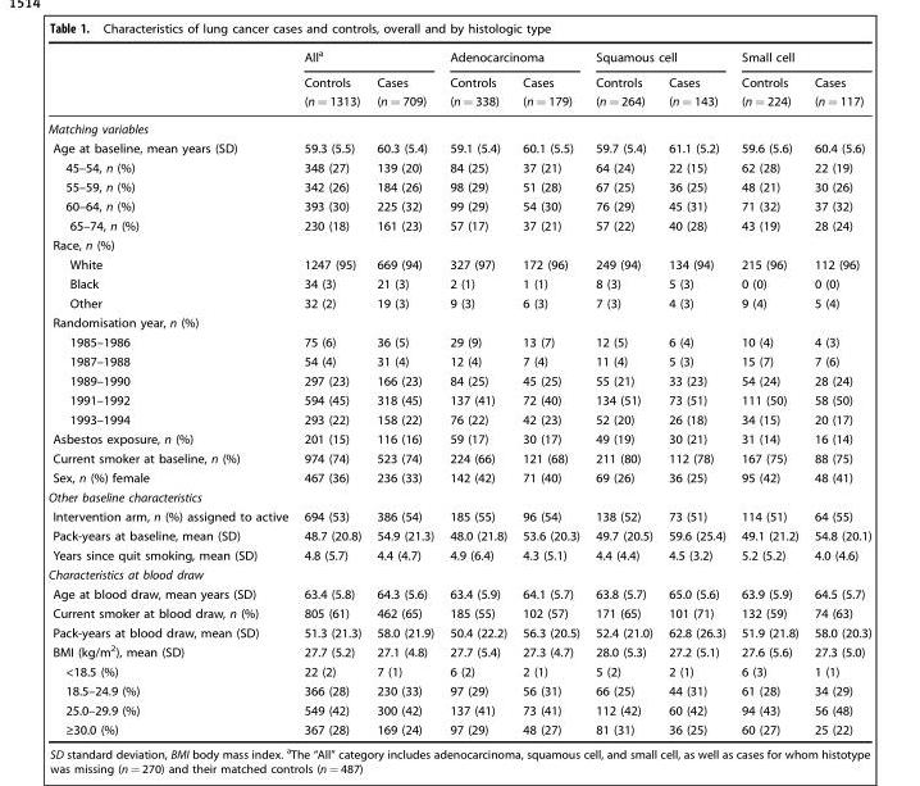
<table><thead><tr><td rowspan="3"></td><td colspan="2">All<sup>a</sup></td><td colspan="2">Adenocarcinoma</td><td colspan="2">Squamous cell</td><td colspan="2">Small cell</td></tr><tr><td rowspan="2">Controls (n = 1313)</td><td rowspan="2">Cases (n = 709)</td><td rowspan="2">Controls (n = 338)</td><td rowspan="2">Cases (n = 179)</td><td rowspan="2">Controls (n = 264)</td><td rowspan="2">Cases (n = 143)</td><td rowspan="2">Controls (n = 224)</td><td rowspan="2">Cases (n = 117)</td></tr><tr></tr></thead><tbody><tr><td colspan="9">Matching variables</td></tr><tr><td>Age at baseline, mean years (SD)</td><td>59.3 (5.5)</td><td>60.3 (5.4)</td><td>59.1 (5.4)</td><td>60.1 (5.5)</td><td>59.7 (5.4)</td><td>61.1 (5.2)</td><td>59.6 (5.6)</td><td>60.4 (5.6)</td></tr><tr><td>45–54, n (%)</td><td>348 (27)</td><td>139 (20)</td><td>84 (25)</td><td>37 (21)</td><td>64 (24)</td><td>22 (15)</td><td>62 (28)</td><td>22 (19)</td></tr><tr><td>55–59, n (%)</td><td>342 (26)</td><td>184 (26)</td><td>98 (29)</td><td>51 (28)</td><td>67 (25)</td><td>36 (25)</td><td>48 (21)</td><td>30 (26)</td></tr><tr><td>60–64, n (%)</td><td>393 (30)</td><td>225 (32)</td><td>99 (29)</td><td>54 (30)</td><td>76 (29)</td><td>45 (31)</td><td>71 (32)</td><td>37 (32)</td></tr><tr><td>65–74, n (%)</td><td>230 (18)</td><td>161 (23)</td><td>57 (17)</td><td>37 (21)</td><td>57 (22)</td><td>40 (28)</td><td>43 (19)</td><td>28 (24)</td></tr><tr><td colspan="9">Race, n (%)</td></tr><tr><td>White</td><td>1247 (95)</td><td>669 (94)</td><td>327 (97)</td><td>172 (96)</td><td>249 (94)</td><td>134 (94)</td><td>215 (96)</td><td>112 (96)</td></tr><tr><td>Black</td><td>34 (3)</td><td>21 (3)</td><td>2 (1)</td><td>1 (1)</td><td>8 (3)</td><td>5 (3)</td><td>0 (0)</td><td>0 (0)</td></tr><tr><td>Other</td><td>32 (2)</td><td>19 (3)</td><td>9 (3)</td><td>6 (3)</td><td>7 (3)</td><td>4 (3)</td><td>9 (4)</td><td>5 (4)</td></tr><tr><td colspan="9">Randomisation year, n (%)</td></tr><tr><td>1985–1986</td><td>75 (6)</td><td>36 (5)</td><td>29 (9)</td><td>13 (7)</td><td>12 (5)</td><td>6 (4)</td><td>10 (4)</td><td>4 (3)</td></tr><tr><td>1987–1988</td><td>54 (4)</td><td>31 (4)</td><td>12 (4)</td><td>7 (4)</td><td>11 (4)</td><td>5 (3)</td><td>15 (7)</td><td>7 (6)</td></tr><tr><td>1989–1990</td><td>297 (23)</td><td>166 (23)</td><td>84 (25)</td><td>45 (25)</td><td>55 (21)</td><td>33 (23)</td><td>54 (24)</td><td>28 (24)</td></tr><tr><td>1991–1992</td><td>594 (45)</td><td>318 (45)</td><td>137 (41)</td><td>72 (40)</td><td>134 (51)</td><td>73 (51)</td><td>111 (50)</td><td>58 (50)</td></tr><tr><td>1993–1994</td><td>293 (22)</td><td>158 (22)</td><td>76 (22)</td><td>42 (23)</td><td>52 (20)</td><td>26 (18)</td><td>34 (15)</td><td>20 (17)</td></tr><tr><td>Asbestos exposure, n (%)</td><td>201 (15)</td><td>116 (16)</td><td>59 (17)</td><td>30 (17)</td><td>49 (19)</td><td>30 (21)</td><td>31 (14)</td><td>16 (14)</td></tr><tr><td>Current smoker at baseline, n (%)</td><td>974 (74)</td><td>523 (74)</td><td>224 (66)</td><td>121 (68)</td><td>211 (80)</td><td>112 (78)</td><td>167 (75)</td><td>88 (75)</td></tr><tr><td>Sex, n (%) female</td><td>467 (36)</td><td>236 (33)</td><td>142 (42)</td><td>71 (40)</td><td>69 (26)</td><td>36 (25)</td><td>95 (42)</td><td>48 (41)</td></tr><tr><td colspan="9">Other baseline characteristics</td></tr><tr><td>Intervention arm, n (%) assigned to active</td><td>694 (53)</td><td>386 (54)</td><td>185 (55)</td><td>96 (54)</td><td>138 (52)</td><td>73 (51)</td><td>114 (51)</td><td>64 (55)</td></tr><tr><td>Pack-years at baseline, mean (SD)</td><td>48.7 (20.8)</td><td>54.9 (21.3)</td><td>48.0 (21.8)</td><td>53.6 (20.3)</td><td>49.7 (20.5)</td><td>59.6 (25.4)</td><td>49.1 (21.2)</td><td>54.8 (20.1)</td></tr><tr><td>Years since quit smoking, mean (SD)</td><td>4.8 (5.7)</td><td>4.4 (4.7)</td><td>4.9 (6.4)</td><td>4.3 (5.1)</td><td>4.4 (4.4)</td><td>4.5 (3.2)</td><td>5.2 (5.2)</td><td>4.0 (4.6)</td></tr><tr><td colspan="9">Characteristics at blood draw</td></tr><tr><td>Age at blood draw, mean years (SD)</td><td>63.4 (5.8)</td><td>64.3 (5.6)</td><td>63.4 (5.9)</td><td>64.1 (5.7)</td><td>63.8 (5.7)</td><td>65.0 (5.6)</td><td>63.9 (5.9)</td><td>64.5 (5.7)</td></tr><tr><td>Current smoker at blood draw, n (%)</td><td>805 (61)</td><td>462 (65)</td><td>185 (55)</td><td>102 (57)</td><td>171 (65)</td><td>101 (71)</td><td>132 (59)</td><td>74 (63)</td></tr><tr><td>Pack-years at blood draw, mean (SD)</td><td>51.3 (21.3)</td><td>58.0 (21.9)</td><td>50.4 (22.2)</td><td>56.3 (20.5)</td><td>52.4 (21.0)</td><td>62.8 (26.3)</td><td>51.9 (21.8)</td><td>58.0 (20.3)</td></tr><tr><td>BMI (kg/m<sup>2</sup>), mean (SD)</td><td>27.7 (5.2)</td><td>27.1 (4.8)</td><td>27.7 (5.4)</td><td>27.3 (4.7)</td><td>28.0 (5.3)</td><td>27.2 (5.1)</td><td>27.6 (5.6)</td><td>27.3 (5.0)</td></tr><tr><td>&lt;18.5 (%)</td><td>22 (2)</td><td>7 (1)</td><td>6 (2)</td><td>2 (1)</td><td>5 (2)</td><td>2 (1)</td><td>6 (3)</td><td>1 (1)</td></tr><tr><td>18.5–24.9 (%)</td><td>366 (28)</td><td>230 (33)</td><td>97 (29)</td><td>56 (31)</td><td>66 (25)</td><td>44 (31)</td><td>61 (28)</td><td>34 (29)</td></tr><tr><td>25.0–29.9 (%)</td><td>549 (42)</td><td>300 (42)</td><td>137 (41)</td><td>73 (41)</td><td>112 (42)</td><td>60 (42)</td><td>94 (43)</td><td>56 (48)</td></tr><tr><td>≥30.0 (%)</td><td>367 (28)</td><td>169 (24)</td><td>97 (29)</td><td>48 (27)</td><td>81 (31)</td><td>36 (25)</td><td>60 (27)</td><td>25 (22)</td></tr></tbody></table>